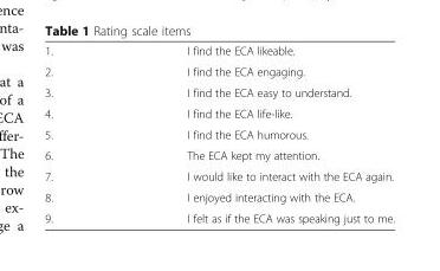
<table><tbody><tr><td>1.</td><td>I find the ECA likeable.</td></tr><tr><td>2.</td><td>I find the ECA engaging.</td></tr><tr><td>3.</td><td>I find the ECA easy to understand.</td></tr><tr><td>4.</td><td>I find the ECA life-like.</td></tr><tr><td>5.</td><td>I find the ECA humorous.</td></tr><tr><td>6.</td><td>The ECA kept my attention.</td></tr><tr><td>7.</td><td>I would like to interact with the ECA again.</td></tr><tr><td>8.</td><td>I enjoyed interacting with the ECA.</td></tr><tr><td>9.</td><td>I felt as if the ECA was speaking just to me.</td></tr></tbody></table>